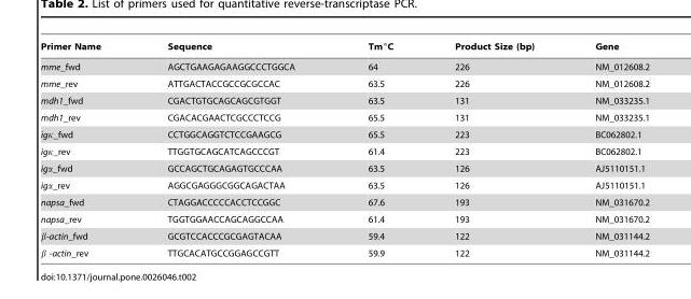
<table><thead><tr><td>Primer Name</td><td>Sequence</td><td>Tm°C</td><td>Product Size (bp)</td><td>Gene</td></tr></thead><tbody><tr><td>mme_fwd</td><td>AGCTGAAGAGAAGGCCCTGGCA</td><td>64</td><td>226</td><td>NM_012608.2</td></tr><tr><td>mme_rev</td><td>ATTGACTACCGCCGCGCCAC</td><td>63.5</td><td>226</td><td>NM_012608.2</td></tr><tr><td>mdh1_fwd</td><td>CGACTGTGCAGCAGCGTGGT</td><td>63.5</td><td>131</td><td>NM_033235.1</td></tr><tr><td>mdh1_rev</td><td>CGACACGAACTCGCCCTCCG</td><td>65.5</td><td>131</td><td>NM_033235.1</td></tr><tr><td>igκ_fwd</td><td>CCTGGCAGGTCTCCGAAGCG</td><td>65.5</td><td>223</td><td>BC062802.1</td></tr><tr><td>igκ_rev</td><td>TTGGTGCAGCATCAGCCCGT</td><td>61.4</td><td>223</td><td>BC062802.1</td></tr><tr><td>igα_fwd</td><td>GCCAGCTGCAGAGTGCCCAA</td><td>63.5</td><td>126</td><td>AJ5110151.1</td></tr><tr><td>igα_rev</td><td>AGGCGAGGGCGGCAGACTAA</td><td>63.5</td><td>126</td><td>AJ5110151.1</td></tr><tr><td>napsa_fwd</td><td>CTAGGACCCCCACCTCCGGC</td><td>67.6</td><td>193</td><td>NM_031670.2</td></tr><tr><td>napsa_rev</td><td>TGGTGGAACCAGCAGGCCAA</td><td>61.4</td><td>193</td><td>NM_031670.2</td></tr><tr><td>β-actin_fwd</td><td>GCGTCCACCCGCGAGTACAA</td><td>59.4</td><td>122</td><td>NM_031144.2</td></tr><tr><td>β -actin_rev</td><td>TTGCACATGCCGGAGCCGTT</td><td>59.9</td><td>122</td><td>NM_031144.2</td></tr></tbody></table>